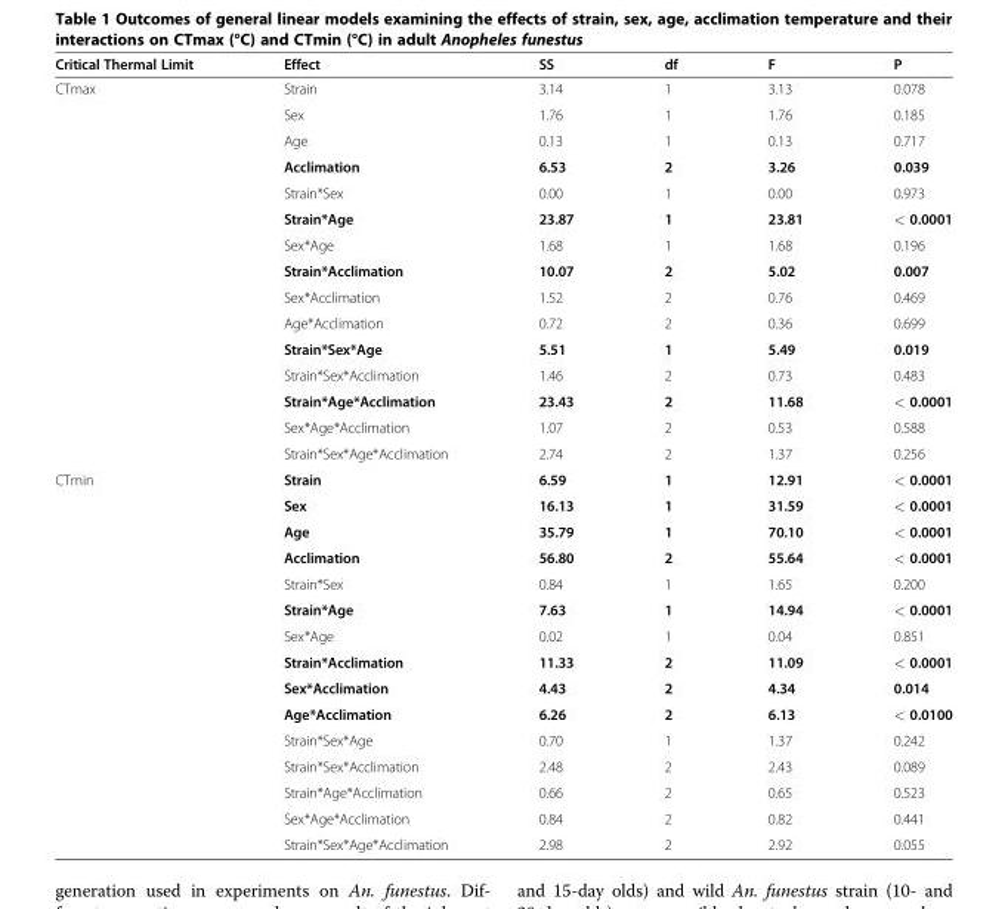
<table><thead><tr><td>Critical Thermal Limit</td><td>Effect</td><td>SS</td><td>df</td><td>F</td><td>P</td></tr></thead><tbody><tr><td rowspan="15">CTmax</td><td>Strain</td><td>3.14</td><td>1</td><td>3.13</td><td>0.078</td></tr><tr><td>Sex</td><td>1.76</td><td>1</td><td>1.76</td><td>0.185</td></tr><tr><td>Age</td><td>0.13</td><td>1</td><td>0.13</td><td>0.717</td></tr><tr><td>Acclimation</td><td>6.53</td><td>2</td><td>3.26</td><td>0.039</td></tr><tr><td>Strain*Sex</td><td>0.00</td><td>1</td><td>0.00</td><td>0.973</td></tr><tr><td>Strain*Age</td><td>23.87</td><td>1</td><td>23.81</td><td>&lt; 0.0001</td></tr><tr><td>Sex*Age</td><td>1.68</td><td>1</td><td>1.68</td><td>0.196</td></tr><tr><td>Strain*Acclimation</td><td>10.07</td><td>2</td><td>5.02</td><td>0.007</td></tr><tr><td>Sex*Acclimation</td><td>1.52</td><td>2</td><td>0.76</td><td>0.469</td></tr><tr><td>Age*Acclimation</td><td>0.72</td><td>2</td><td>0.36</td><td>0.699</td></tr><tr><td>Strain*Sex*Age</td><td>5.51</td><td>1</td><td>5.49</td><td>0.019</td></tr><tr><td>Strain*Sex*Acclimation</td><td>1.46</td><td>2</td><td>0.73</td><td>0.483</td></tr><tr><td>Strain*Age*Acclimation</td><td>23.43</td><td>2</td><td>11.68</td><td>&lt; 0.0001</td></tr><tr><td>Sex*Age*Acclimation</td><td>1.07</td><td>2</td><td>0.53</td><td>0.588</td></tr><tr><td>Strain*Sex*Age*Acclimation</td><td>2.74</td><td>2</td><td>1.37</td><td>0.256</td></tr><tr><td rowspan="15">CTmin</td><td>Strain</td><td>6.59</td><td>1</td><td>12.91</td><td>&lt; 0.0001</td></tr><tr><td>Sex</td><td>16.13</td><td>1</td><td>31.59</td><td>&lt; 0.0001</td></tr><tr><td>Age</td><td>35.79</td><td>1</td><td>70.10</td><td>&lt; 0.0001</td></tr><tr><td>Acclimation</td><td>56.80</td><td>2</td><td>55.64</td><td>&lt; 0.0001</td></tr><tr><td>Strain*Sex</td><td>0.84</td><td>1</td><td>1.65</td><td>0.200</td></tr><tr><td>Strain*Age</td><td>7.63</td><td>1</td><td>14.94</td><td>&lt; 0.0001</td></tr><tr><td>Sex*Age</td><td>0.02</td><td>1</td><td>0.04</td><td>0.851</td></tr><tr><td>Strain*Acclimation</td><td>11.33</td><td>2</td><td>11.09</td><td>&lt; 0.0001</td></tr><tr><td>Sex*Acclimation</td><td>4.43</td><td>2</td><td>4.34</td><td>0.014</td></tr><tr><td>Age*Acclimation</td><td>6.26</td><td>2</td><td>6.13</td><td>&lt; 0.0100</td></tr><tr><td>Strain*Sex*Age</td><td>0.70</td><td>1</td><td>1.37</td><td>0.242</td></tr><tr><td>Strain*Sex*Acclimation</td><td>2.48</td><td>2</td><td>2.43</td><td>0.089</td></tr><tr><td>Strain*Age*Acclimation</td><td>0.66</td><td>2</td><td>0.65</td><td>0.523</td></tr><tr><td>Sex*Age*Acclimation</td><td>0.84</td><td>2</td><td>0.82</td><td>0.441</td></tr><tr><td>Strain*Sex*Age*Acclimation</td><td>2.98</td><td>2</td><td>2.92</td><td>0.055</td></tr></tbody></table>